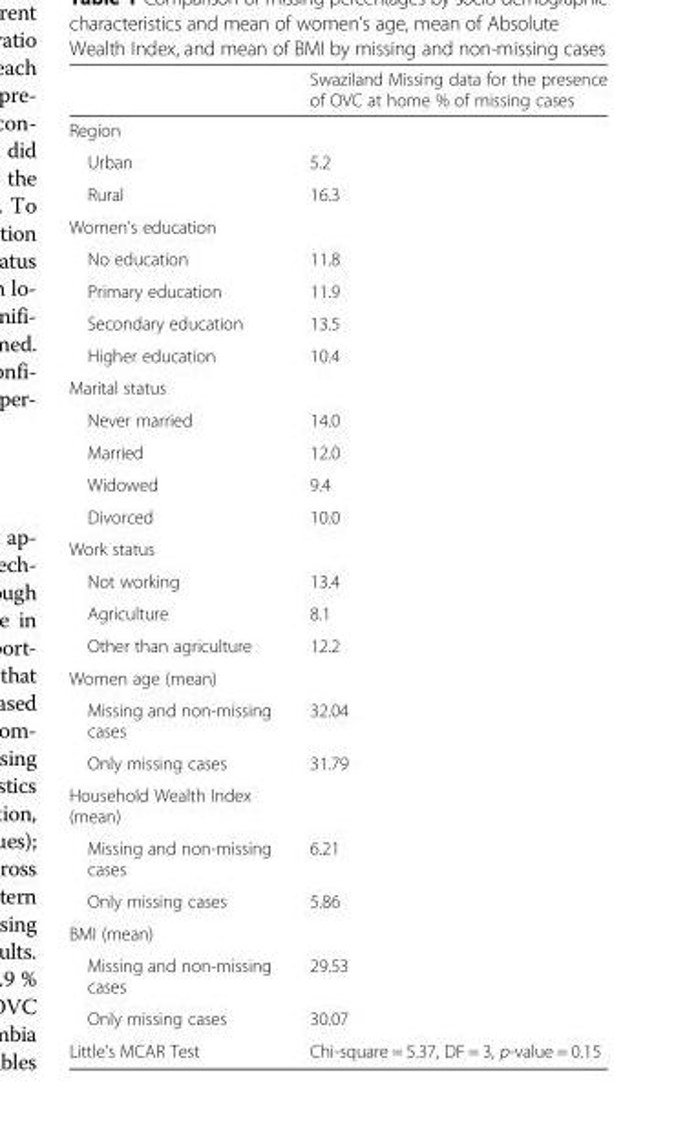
<table><thead><tr><td></td><td>Swaziland Missing data for the presence of OVC at home % of missing cases</td></tr></thead><tbody><tr><td colspan="2">Region</td></tr><tr><td>Urban</td><td>5.2</td></tr><tr><td>Rural</td><td>16.3</td></tr><tr><td colspan="2">Women’s education</td></tr><tr><td>No education</td><td>11.8</td></tr><tr><td>Primary education</td><td>11.9</td></tr><tr><td>Secondary education</td><td>13.5</td></tr><tr><td>Higher education</td><td>10.4</td></tr><tr><td colspan="2">Marital status</td></tr><tr><td>Never married</td><td>14.0</td></tr><tr><td>Married</td><td>12.0</td></tr><tr><td>Widowed</td><td>9.4</td></tr><tr><td>Divorced</td><td>10.0</td></tr><tr><td colspan="2">Work status</td></tr><tr><td>Not working</td><td>13.4</td></tr><tr><td>Agriculture</td><td>8.1</td></tr><tr><td>Other than agriculture</td><td>12.2</td></tr><tr><td colspan="2">Women age (mean)</td></tr><tr><td>Missing and non-missing cases</td><td>32.04</td></tr><tr><td>Only missing cases</td><td>31.79</td></tr><tr><td colspan="2">Household Wealth Index (mean)</td></tr><tr><td>Missing and non-missing cases</td><td>6.21</td></tr><tr><td>Only missing cases</td><td>5.86</td></tr><tr><td colspan="2">BMI (mean)</td></tr><tr><td>Missing and non-missing cases</td><td>29.53</td></tr><tr><td>Only missing cases</td><td>30.07</td></tr><tr><td>Little’s MCAR Test</td><td>Chi-square = 5.37, DF = 3, p-value = 0.15</td></tr></tbody></table>